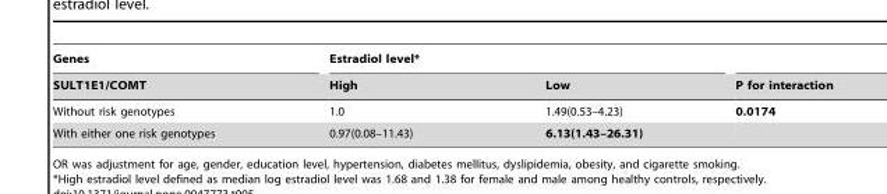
<table><thead><tr><td rowspan="2">Genes SULT1E1/COMT</td><td colspan="2">Estradiol level*</td><td rowspan="2">P for interaction</td></tr><tr><td>High</td><td>Low</td></tr></thead><tbody><tr><td>Without risk genotypes</td><td>1.0</td><td>1.49(0.53–4.23)</td><td>0.0174</td></tr><tr><td>With either one risk genotypes</td><td>0.97(0.08–11.43)</td><td>6.13(1.43–26.31)</td><td></td></tr></tbody></table>